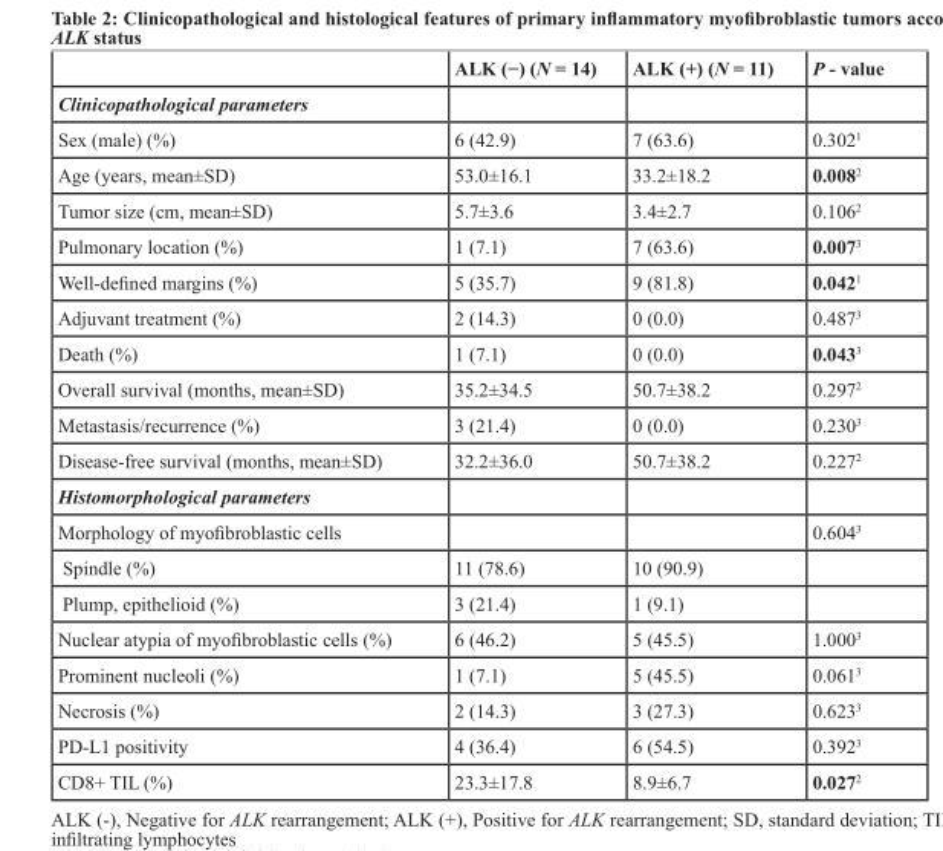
<table><thead><tr><td></td><td>ALK (−) (N = 14)</td><td>ALK (+) (N = 11)</td><td>P - value</td></tr></thead><tbody><tr><td colspan="4">Clinicopathological parameters</td></tr><tr><td>Sex (male) (%)</td><td>6 (42.9)</td><td>7 (63.6)</td><td>0.302<sup>1</sup></td></tr><tr><td>Age (years, mean±SD)</td><td>53.0±16.1</td><td>33.2±18.2</td><td>0.008<sup>2</sup></td></tr><tr><td>Tumor size (cm, mean±SD)</td><td>5.7±3.6</td><td>3.4±2.7</td><td>0.106<sup>2</sup></td></tr><tr><td>Pulmonary location (%)</td><td>1 (7.1)</td><td>7 (63.6)</td><td>0.007<sup>3</sup></td></tr><tr><td>Well-defined margins (%)</td><td>5 (35.7)</td><td>9 (81.8)</td><td>0.042<sup>1</sup></td></tr><tr><td>Adjuvant treatment (%)</td><td>2 (14.3)</td><td>0 (0.0)</td><td>0.487<sup>3</sup></td></tr><tr><td>Death (%)</td><td>1 (7.1)</td><td>0 (0.0)</td><td>0.043<sup>3</sup></td></tr><tr><td>Overall survival (months, mean±SD)</td><td>35.2±34.5</td><td>50.7±38.2</td><td>0.297<sup>2</sup></td></tr><tr><td>Metastasis/recurrence (%)</td><td>3 (21.4)</td><td>0 (0.0)</td><td>0.230<sup>3</sup></td></tr><tr><td>Disease-free survival (months, mean±SD)</td><td>32.2±36.0</td><td>50.7±38.2</td><td>0.227<sup>2</sup></td></tr><tr><td colspan="4">Histomorphological parameters</td></tr><tr><td>Morphology of myofibroblastic cells</td><td></td><td></td><td>0.604<sup>3</sup></td></tr><tr><td>Spindle (%)</td><td>11 (78.6)</td><td>10 (90.9)</td><td></td></tr><tr><td>Plump, epithelioid (%)</td><td>3 (21.4)</td><td>1 (9.1)</td><td></td></tr><tr><td>Nuclear atypia of myofibroblastic cells (%)</td><td>6 (46.2)</td><td>5 (45.5)</td><td>1.000<sup>3</sup></td></tr><tr><td>Prominent nucleoli (%)</td><td>1 (7.1)</td><td>5 (45.5)</td><td>0.061<sup>3</sup></td></tr><tr><td>Necrosis (%)</td><td>2 (14.3)</td><td>3 (27.3)</td><td>0.623<sup>3</sup></td></tr><tr><td>PD-L1 positivity</td><td>4 (36.4)</td><td>6 (54.5)</td><td>0.392<sup>3</sup></td></tr><tr><td>CD8+ TIL (%)</td><td>23.3±17.8</td><td>8.9±6.7</td><td>0.027<sup>2</sup></td></tr></tbody></table>